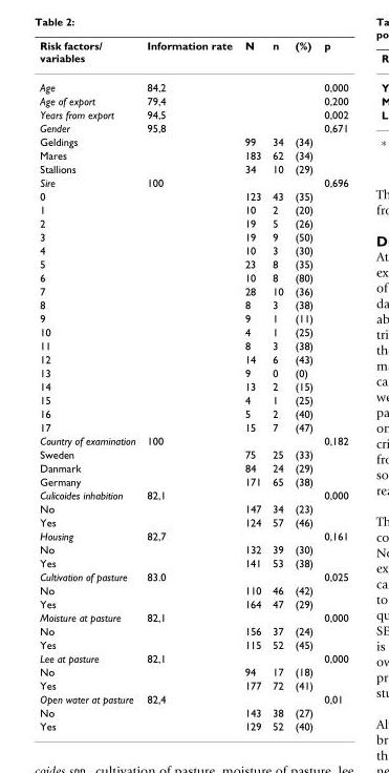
<table><thead><tr><td>Risk factors/ variables</td><td>Information rate</td><td>N</td><td>n</td><td>(%)</td><td>p</td></tr></thead><tbody><tr><td>Age</td><td>84,2</td><td></td><td></td><td></td><td>0,000</td></tr><tr><td>Age of export</td><td>79,4</td><td></td><td></td><td></td><td>0,200</td></tr><tr><td>Years from export</td><td>94,5</td><td></td><td></td><td></td><td>0,002</td></tr><tr><td>Gender</td><td>95,8</td><td></td><td></td><td></td><td>0,671</td></tr><tr><td>Geldings</td><td></td><td>99</td><td>34</td><td>(34)</td><td></td></tr><tr><td>Mares</td><td></td><td>183</td><td>62</td><td>(34)</td><td></td></tr><tr><td>Stallions</td><td></td><td>34</td><td>10</td><td>(29)</td><td></td></tr><tr><td>Sire</td><td>100</td><td></td><td></td><td></td><td>0,696</td></tr><tr><td>0</td><td></td><td>123</td><td>43</td><td>(35)</td><td></td></tr><tr><td>1</td><td></td><td>10</td><td>2</td><td>(20)</td><td></td></tr><tr><td>2</td><td></td><td>19</td><td>5</td><td>(26)</td><td></td></tr><tr><td>3</td><td></td><td>19</td><td>9</td><td>(50)</td><td></td></tr><tr><td>4</td><td></td><td>10</td><td>3</td><td>(30)</td><td></td></tr><tr><td>5</td><td></td><td>23</td><td>8</td><td>(35)</td><td></td></tr><tr><td>6</td><td></td><td>10</td><td>8</td><td>(80)</td><td></td></tr><tr><td>7</td><td></td><td>28</td><td>10</td><td>(36)</td><td></td></tr><tr><td>8</td><td></td><td>8</td><td>3</td><td>(38)</td><td></td></tr><tr><td>9</td><td></td><td>9</td><td>1</td><td>(11)</td><td></td></tr><tr><td>10</td><td></td><td>4</td><td>1</td><td>(25)</td><td></td></tr><tr><td>11</td><td></td><td>8</td><td>3</td><td>(38)</td><td></td></tr><tr><td>12</td><td></td><td>14</td><td>6</td><td>(43)</td><td></td></tr><tr><td>13</td><td></td><td>9</td><td>0</td><td>(0)</td><td></td></tr><tr><td>14</td><td></td><td>13</td><td>2</td><td>(15)</td><td></td></tr><tr><td>15</td><td></td><td>4</td><td>1</td><td>(25)</td><td></td></tr><tr><td>16</td><td></td><td>5</td><td>2</td><td>(40)</td><td></td></tr><tr><td>17</td><td></td><td>15</td><td>7</td><td>(47)</td><td></td></tr><tr><td>Country of examination</td><td>100</td><td></td><td></td><td></td><td>0,182</td></tr><tr><td>Sweden</td><td></td><td>75</td><td>25</td><td>(33)</td><td></td></tr><tr><td>Danmark</td><td></td><td>84</td><td>24</td><td>(29)</td><td></td></tr><tr><td>Germany</td><td></td><td>171</td><td>65</td><td>(38)</td><td></td></tr><tr><td>Culicoides inhabition</td><td>82,1</td><td></td><td></td><td></td><td>0,000</td></tr><tr><td>No</td><td></td><td>147</td><td>34</td><td>(23)</td><td></td></tr><tr><td>Yes</td><td></td><td>124</td><td>57</td><td>(46)</td><td></td></tr><tr><td>Housing</td><td>82,7</td><td></td><td></td><td></td><td>0,161</td></tr><tr><td>No</td><td></td><td>132</td><td>39</td><td>(30)</td><td></td></tr><tr><td>Yes</td><td></td><td>141</td><td>53</td><td>(38)</td><td></td></tr><tr><td>Cultivation of pasture</td><td>83.0</td><td></td><td></td><td></td><td>0,025</td></tr><tr><td>No</td><td></td><td>110</td><td>46</td><td>(42)</td><td></td></tr><tr><td>Yes</td><td></td><td>164</td><td>47</td><td>(29)</td><td></td></tr><tr><td>Moisture at pasture</td><td>82,1</td><td></td><td></td><td></td><td>0,000</td></tr><tr><td>No</td><td></td><td>156</td><td>37</td><td>(24)</td><td></td></tr><tr><td>Yes</td><td></td><td>115</td><td>52</td><td>(45)</td><td></td></tr><tr><td>Lee at pasture</td><td>82,1</td><td></td><td></td><td></td><td>0,000</td></tr><tr><td>No</td><td></td><td>94</td><td>17</td><td>(18)</td><td></td></tr><tr><td>Yes</td><td></td><td>177</td><td>72</td><td>(41)</td><td></td></tr><tr><td>Open water at pasture</td><td>82,4</td><td></td><td></td><td></td><td>0,01</td></tr><tr><td>No</td><td></td><td>143</td><td>38</td><td>(27)</td><td></td></tr><tr><td>Yes</td><td></td><td>129</td><td>52</td><td>(40)</td><td></td></tr></tbody></table>